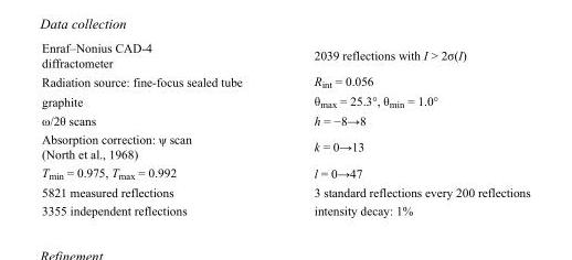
<table><tbody><tr><td>Enraf–Nonius CAD-4 diffractometer</td><td>2039 reflections with I &gt; 2σ(I)</td></tr><tr><td>Radiation source: fine-focus sealed tube</td><td>R<sub>int</sub> = 0.056</td></tr><tr><td>graphite</td><td>θ<sub>max</sub> = 25.3°, θ<sub>min</sub> = 1.0°</td></tr><tr><td>ω/2θ scans</td><td>h = −8→8</td></tr><tr><td>Absorption correction: ψ scan (North et al., 1968)</td><td>k = 0→13</td></tr><tr><td>T<sub>min</sub> = 0.975, T<sub>max</sub> = 0.992</td><td>l = 0→47</td></tr><tr><td>5821 measured reflections</td><td>3 standard reflections every 200 reflections</td></tr><tr><td>3355 independent reflections</td><td>intensity decay: 1%</td></tr></tbody></table>